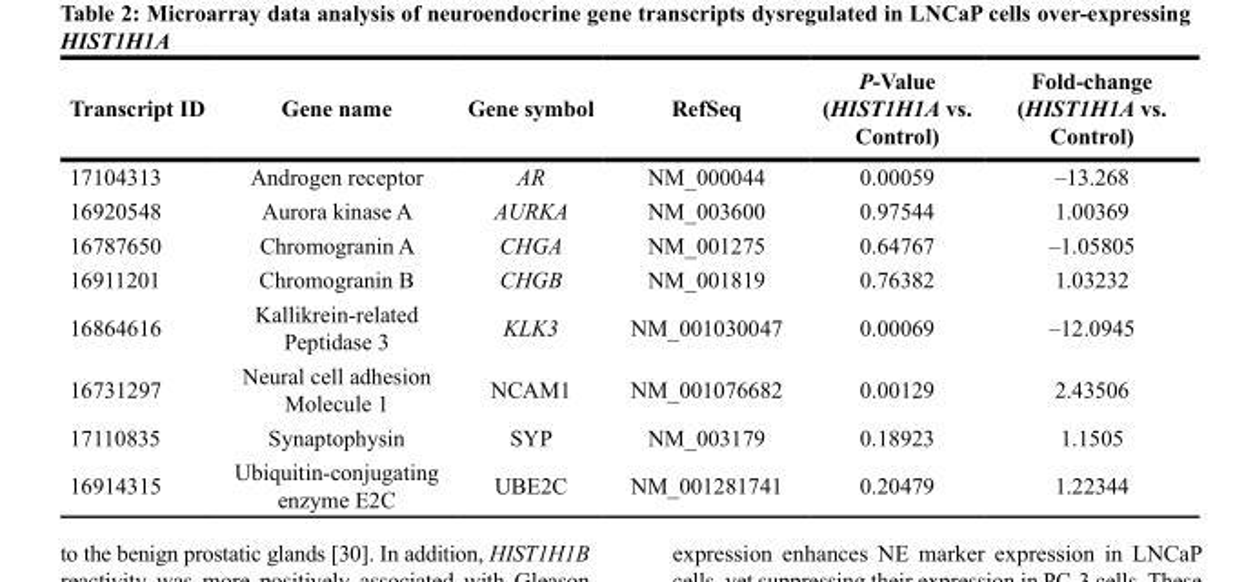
<table><thead><tr><td>Transcript ID</td><td>Gene name</td><td>Gene symbol</td><td>RefSeq</td><td>P-Value (HIST1H1A vs. Control)</td><td>Fold-change (HIST1H1A vs. Control)</td></tr></thead><tbody><tr><td>17104313</td><td>Androgen receptor</td><td>AR</td><td>NM_000044</td><td>0.00059</td><td>–13.268</td></tr><tr><td>16920548</td><td>Aurora kinase A</td><td>AURKA</td><td>NM_003600</td><td>0.97544</td><td>1.00369</td></tr><tr><td>16787650</td><td>Chromogranin A</td><td>CHGA</td><td>NM_001275</td><td>0.64767</td><td>–1.05805</td></tr><tr><td>16911201</td><td>Chromogranin B</td><td>CHGB</td><td>NM_001819</td><td>0.76382</td><td>1.03232</td></tr><tr><td>16864616</td><td>Kallikrein-related Peptidase 3</td><td>KLK3</td><td>NM_001030047</td><td>0.00069</td><td>–12.0945</td></tr><tr><td>16731297</td><td>Neural cell adhesion Molecule 1</td><td>NCAM1</td><td>NM_001076682</td><td>0.00129</td><td>2.43506</td></tr><tr><td>17110835</td><td>Synaptophysin</td><td>SYP</td><td>NM_003179</td><td>0.18923</td><td>1.1505</td></tr><tr><td>16914315</td><td>Ubiquitin-conjugating enzyme E2C</td><td>UBE2C</td><td>NM_001281741</td><td>0.20479</td><td>1.22344</td></tr></tbody></table>